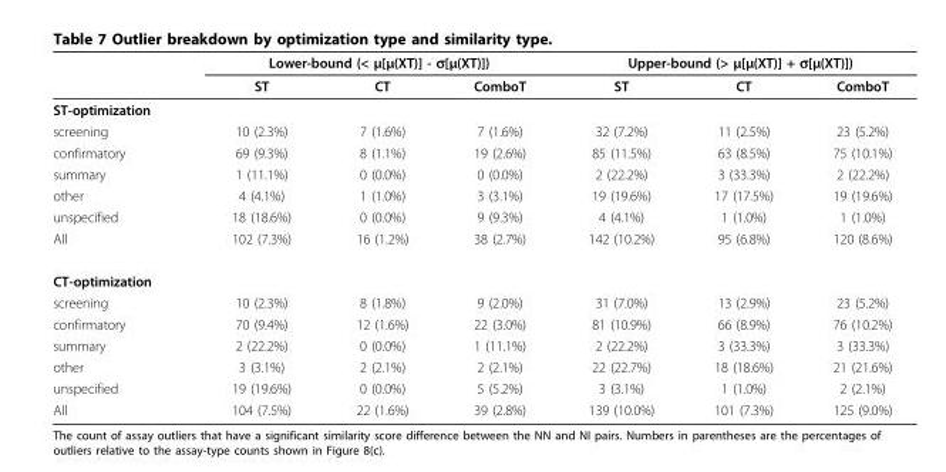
<table><thead><tr><td rowspan="2"></td><td colspan="3">Lower-bound (&lt; μ[μ(XT)] - σ[μ(XT)])</td><td colspan="3">Upper-bound (&gt; μ[μ(XT)] + σ[μ(XT)])</td></tr><tr><td>ST</td><td>CT</td><td>ComboT</td><td>ST</td><td>CT</td><td>ComboT</td></tr></thead><tbody><tr><td colspan="7">ST-optimization</td></tr><tr><td>screening</td><td>10 (2.3%)</td><td>7 (1.6%)</td><td>7 (1.6%)</td><td>32 (7.2%)</td><td>11 (2.5%)</td><td>23 (5.2%)</td></tr><tr><td>confirmatory</td><td>69 (9.3%)</td><td>8 (1.1%)</td><td>19 (2.6%)</td><td>85 (11.5%)</td><td>63 (8.5%)</td><td>75 (10.1%)</td></tr><tr><td>summary</td><td>1 (11.1%)</td><td>0 (0.0%)</td><td>0 (0.0%)</td><td>2 (22.2%)</td><td>3 (33.3%)</td><td>2 (22.2%)</td></tr><tr><td>other</td><td>4 (4.1%)</td><td>1 (1.0%)</td><td>3 (3.1%)</td><td>19 (19.6%)</td><td>17 (17.5%)</td><td>19 (19.6%)</td></tr><tr><td>unspecified</td><td>18 (18.6%)</td><td>0 (0.0%)</td><td>9 (9.3%)</td><td>4 (4.1%)</td><td>1 (1.0%)</td><td>1 (1.0%)</td></tr><tr><td>All</td><td>102 (7.3%)</td><td>16 (1.2%)</td><td>38 (2.7%)</td><td>142 (10.2%)</td><td>95 (6.8%)</td><td>120 (8.6%)</td></tr><tr><td colspan="7">CT-optimization</td></tr><tr><td>screening</td><td>10 (2.3%)</td><td>8 (1.8%)</td><td>9 (2.0%)</td><td>31 (7.0%)</td><td>13 (2.9%)</td><td>23 (5.2%)</td></tr><tr><td>confirmatory</td><td>70 (9.4%)</td><td>12 (1.6%)</td><td>22 (3.0%)</td><td>81 (10.9%)</td><td>66 (8.9%)</td><td>76 (10.2%)</td></tr><tr><td>summary</td><td>2 (22.2%)</td><td>0 (0.0%)</td><td>1 (11.1%)</td><td>2 (22.2%)</td><td>3 (33.3%)</td><td>3 (33.3%)</td></tr><tr><td>other</td><td>3 (3.1%)</td><td>2 (2.1%)</td><td>2 (2.1%)</td><td>22 (22.7%)</td><td>18 (18.6%)</td><td>21 (21.6%)</td></tr><tr><td>unspecified</td><td>19 (19.6%)</td><td>0 (0.0%)</td><td>5 (5.2%)</td><td>3 (3.1%)</td><td>1 (1.0%)</td><td>2 (2.1%)</td></tr><tr><td>All</td><td>104 (7.5%)</td><td>22 (1.6%)</td><td>39 (2.8%)</td><td>139 (10.0%)</td><td>101 (7.3%)</td><td>125 (9.0%)</td></tr></tbody></table>